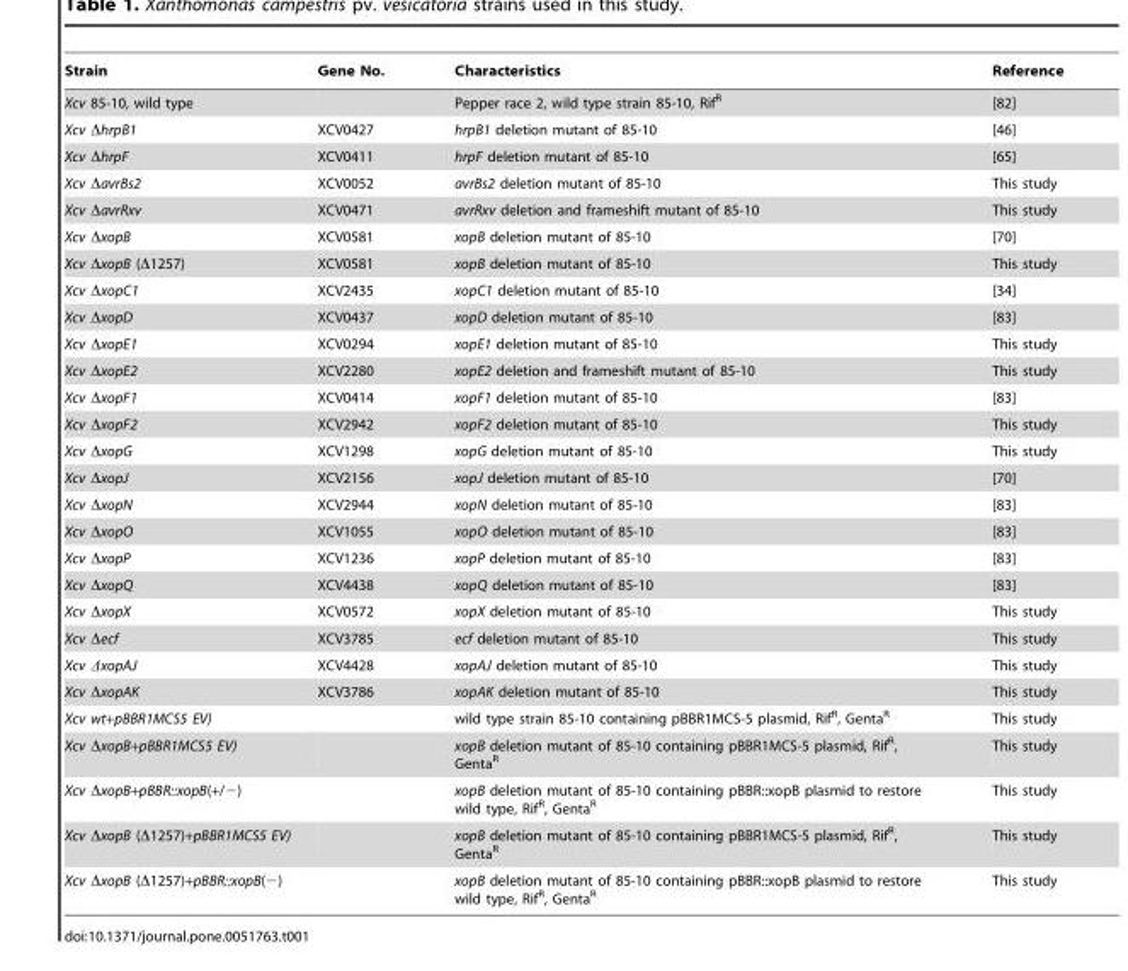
<table><thead><tr><td>Strain</td><td>Gene No.</td><td>Characteristics</td><td>Reference</td></tr></thead><tbody><tr><td>Xcv 85-10, wild type</td><td></td><td>Pepper race 2, wild type strain 85-10, Rif<sup>R</sup></td><td>[82]</td></tr><tr><td>Xcv ΔhrpB1</td><td>XCV0427</td><td>hrpB1 deletion mutant of 85-10</td><td>[46]</td></tr><tr><td>Xcv ΔhrpF</td><td>XCV0411</td><td>hrpF deletion mutant of 85-10</td><td>[65]</td></tr><tr><td>Xcv ΔavrBs2</td><td>XCV0052</td><td>avrBs2 deletion mutant of 85-10</td><td>This study</td></tr><tr><td>Xcv ΔavrRxv</td><td>XCV0471</td><td>avrRxv deletion and frameshift mutant of 85-10</td><td>This study</td></tr><tr><td>Xcv ΔxopB</td><td>XCV0581</td><td>xopB deletion mutant of 85-10</td><td>[70]</td></tr><tr><td>Xcv ΔxopB (Δ1257)</td><td>XCV0581</td><td>xopB deletion mutant of 85-10</td><td>This study</td></tr><tr><td>Xcv ΔxopC1</td><td>XCV2435</td><td>xopC1 deletion mutant of 85-10</td><td>[34]</td></tr><tr><td>Xcv ΔxopD</td><td>XCV0437</td><td>xopD deletion mutant of 85-10</td><td>[83]</td></tr><tr><td>Xcv ΔxopE1</td><td>XCV0294</td><td>xopE1 deletion mutant of 85-10</td><td>This study</td></tr><tr><td>Xcv ΔxopE2</td><td>XCV2280</td><td>xopE2 deletion and frameshift mutant of 85-10</td><td>This study</td></tr><tr><td>Xcv ΔxopF1</td><td>XCV0414</td><td>xopF1 deletion mutant of 85-10</td><td>[83]</td></tr><tr><td>Xcv ΔxopF2</td><td>XCV2942</td><td>xopF2 deletion mutant of 85-10</td><td>This study</td></tr><tr><td>Xcv ΔxopG</td><td>XCV1298</td><td>xopG deletion mutant of 85-10</td><td>This study</td></tr><tr><td>Xcv ΔxopJ</td><td>XCV2156</td><td>xopJ deletion mutant of 85-10</td><td>[70]</td></tr><tr><td>Xcv ΔxopN</td><td>XCV2944</td><td>xopN deletion mutant of 85-10</td><td>[83]</td></tr><tr><td>Xcv ΔxopO</td><td>XCV1055</td><td>xopO deletion mutant of 85-10</td><td>[83]</td></tr><tr><td>Xcv ΔxopP</td><td>XCV1236</td><td>xopP deletion mutant of 85-10</td><td>[83]</td></tr><tr><td>Xcv ΔxopQ</td><td>XCV4438</td><td>xopQ deletion mutant of 85-10</td><td>[83]</td></tr><tr><td>Xcv ΔxopX</td><td>XCV0572</td><td>xopX deletion mutant of 85-10</td><td>This study</td></tr><tr><td>Xcv Δecf</td><td>XCV3785</td><td>ecf deletion mutant of 85-10</td><td>This study</td></tr><tr><td>Xcv ΔxopAJ</td><td>XCV4428</td><td>xopAJ deletion mutant of 85-10</td><td>This study</td></tr><tr><td>Xcv ΔxopAK</td><td>XCV3786</td><td>xopAK deletion mutant of 85-10</td><td>This study</td></tr><tr><td>Xcv wt+pBBR1MCS5 EV)</td><td></td><td>wild type strain 85-10 containing pBBR1MCS-5 plasmid, Rif<sup>R</sup>, Genta<sup>R</sup></td><td>This study</td></tr><tr><td>Xcv ΔxopB+pBBR1MCS5 EV)</td><td></td><td>xopB deletion mutant of 85-10 containing pBBR1MCS-5 plasmid, Rif<sup>R</sup>, Genta<sup>R</sup></td><td>This study</td></tr><tr><td>Xcv ΔxopB+pBBR::xopB(+/−)</td><td></td><td>xopB deletion mutant of 85-10 containing pBBR::xopB plasmid to restore wild type, Rif<sup>R</sup>, Genta<sup>R</sup></td><td>This study</td></tr><tr><td>Xcv ΔxopB (Δ1257)+pBBR1MCS5 EV)</td><td></td><td>xopB deletion mutant of 85-10 containing pBBR1MCS-5 plasmid, Rif<sup>R</sup>, Genta<sup>R</sup></td><td>This study</td></tr><tr><td>Xcv ΔxopB (Δ1257)+pBBR::xopB(−)</td><td></td><td>xopB deletion mutant of 85-10 containing pBBR::xopB plasmid to restore wild type, Rif<sup>R</sup>, Genta<sup>R</sup></td><td>This study</td></tr></tbody></table>